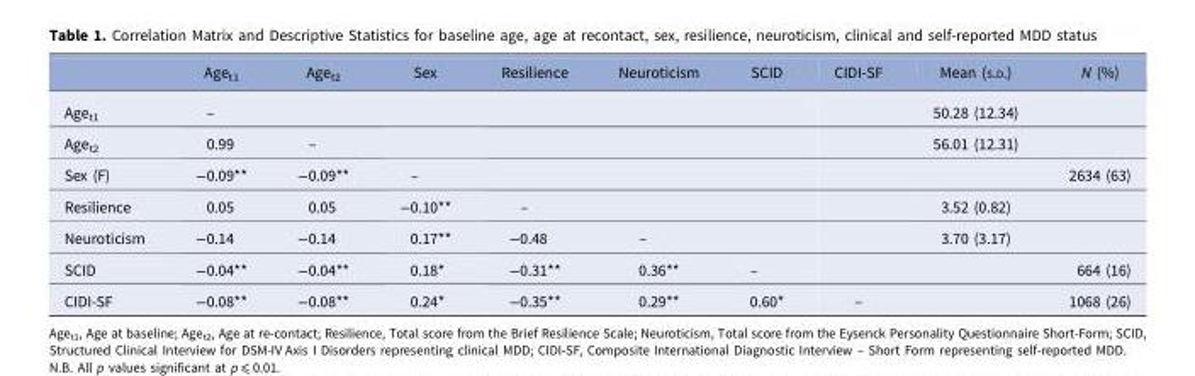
<table><thead><tr><td></td><td>Age<sub>t1</sub></td><td>Age<sub>t2</sub></td><td>Sex</td><td>Resilience</td><td>Neuroticism</td><td>SCID</td><td>CIDI-SF</td><td>Mean (S.D.)</td><td>N (%)</td></tr></thead><tbody><tr><td>Age<sub>t1</sub></td><td>–</td><td></td><td></td><td></td><td></td><td></td><td></td><td>50.28 (12.34)</td><td></td></tr><tr><td>Age<sub>t2</sub></td><td>0.99</td><td>–</td><td></td><td></td><td></td><td></td><td></td><td>56.01 (12.31)</td><td></td></tr><tr><td>Sex (F)</td><td>−0.09**</td><td>−0.09**</td><td>–</td><td></td><td></td><td></td><td></td><td></td><td>2634 (63)</td></tr><tr><td>Resilience</td><td>0.05</td><td>0.05</td><td>−0.10**</td><td>–</td><td></td><td></td><td></td><td>3.52 (0.82)</td><td></td></tr><tr><td>Neuroticism</td><td>−0.14</td><td>−0.14</td><td>0.17**</td><td>−0.48</td><td>–</td><td></td><td></td><td>3.70 (3.17)</td><td></td></tr><tr><td>SCID</td><td>−0.04**</td><td>−0.04**</td><td>0.18*</td><td>−0.31**</td><td>0.36**</td><td>–</td><td></td><td></td><td>664 (16)</td></tr><tr><td>CIDI-SF</td><td>−0.08**</td><td>−0.08**</td><td>0.24*</td><td>−0.35**</td><td>0.29**</td><td>0.60*</td><td>–</td><td></td><td>1068 (26)</td></tr></tbody></table>